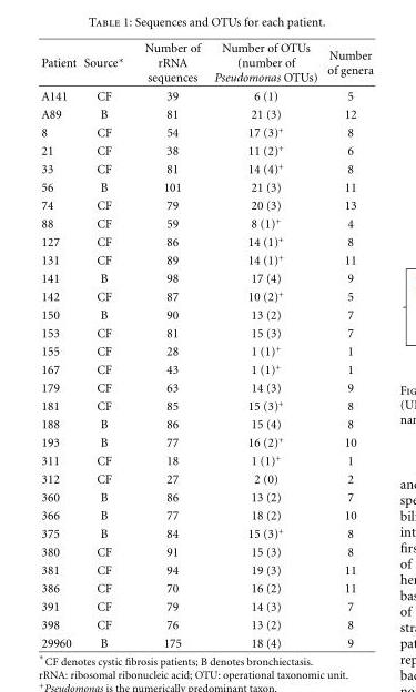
<table><thead><tr><td>Patient</td><td>Source∗</td><td>Number of rRNA sequences</td><td>Number of OTUs (number of Pseudomonas OTUs)</td><td>Number of genera</td></tr></thead><tbody><tr><td>A141</td><td>CF</td><td>39</td><td>6 (1)</td><td>5</td></tr><tr><td>A89</td><td>B</td><td>81</td><td>21 (3)</td><td>12</td></tr><tr><td>8</td><td>CF</td><td>54</td><td>17 (3)<sup>+</sup></td><td>8</td></tr><tr><td>21</td><td>CF</td><td>38</td><td>11 (2)<sup>+</sup></td><td>6</td></tr><tr><td>33</td><td>CF</td><td>81</td><td>14 (4)<sup>+</sup></td><td>8</td></tr><tr><td>56</td><td>B</td><td>101</td><td>21 (3)</td><td>11</td></tr><tr><td>74</td><td>CF</td><td>79</td><td>20 (3)</td><td>13</td></tr><tr><td>88</td><td>CF</td><td>59</td><td>8 (1)<sup>+</sup></td><td>4</td></tr><tr><td>127</td><td>CF</td><td>86</td><td>14 (1)<sup>+</sup></td><td>8</td></tr><tr><td>131</td><td>CF</td><td>89</td><td>14 (1)<sup>+</sup></td><td>11</td></tr><tr><td>141</td><td>B</td><td>98</td><td>17 (4)</td><td>9</td></tr><tr><td>142</td><td>CF</td><td>87</td><td>10 (2)<sup>+</sup></td><td>5</td></tr><tr><td>150</td><td>B</td><td>90</td><td>13 (2)</td><td>7</td></tr><tr><td>153</td><td>CF</td><td>81</td><td>15 (3)</td><td>7</td></tr><tr><td>155</td><td>CF</td><td>28</td><td>1 (1)<sup>+</sup></td><td>1</td></tr><tr><td>167</td><td>CF</td><td>43</td><td>1 (1)<sup>+</sup></td><td>1</td></tr><tr><td>179</td><td>CF</td><td>63</td><td>14 (3)</td><td>9</td></tr><tr><td>181</td><td>CF</td><td>85</td><td>15 (3)<sup>+</sup></td><td>8</td></tr><tr><td>188</td><td>B</td><td>86</td><td>15 (4)</td><td>8</td></tr><tr><td>193</td><td>B</td><td>77</td><td>16 (2)<sup>+</sup></td><td>10</td></tr><tr><td>311</td><td>CF</td><td>18</td><td>1 (1)<sup>+</sup></td><td>1</td></tr><tr><td>312</td><td>CF</td><td>27</td><td>2 (0)</td><td>2</td></tr><tr><td>360</td><td>B</td><td>86</td><td>13 (2)</td><td>7</td></tr><tr><td>366</td><td>B</td><td>77</td><td>18 (2)</td><td>10</td></tr><tr><td>375</td><td>B</td><td>84</td><td>15 (3)<sup>+</sup></td><td>8</td></tr><tr><td>380</td><td>CF</td><td>91</td><td>15 (3)</td><td>8</td></tr><tr><td>381</td><td>CF</td><td>94</td><td>19 (3)</td><td>11</td></tr><tr><td>386</td><td>CF</td><td>70</td><td>16 (2)</td><td>11</td></tr><tr><td>391</td><td>CF</td><td>79</td><td>14 (3)</td><td>7</td></tr><tr><td>398</td><td>CF</td><td>76</td><td>13 (2)</td><td>8</td></tr><tr><td>29960</td><td>B</td><td>175</td><td>18 (4)</td><td>9</td></tr></tbody></table>